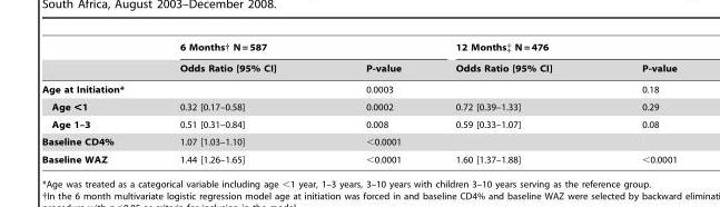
<table><thead><tr><td rowspan="2"></td><td colspan="2">6 Months† N = 587</td><td colspan="2">12 Months‡ N = 476</td></tr><tr><td>Odds Ratio [95% CI]</td><td>P-value</td><td>Odds Ratio [95% CI]</td><td>P-value</td></tr></thead><tbody><tr><td>Age at Initiation*</td><td></td><td>0.0003</td><td></td><td>0.18</td></tr><tr><td>Age &lt;1</td><td>0.32 [0.17–0.58]</td><td>0.0002</td><td>0.72 [0.39–1.33]</td><td>0.29</td></tr><tr><td>Age 1–3</td><td>0.51 [0.31–0.84]</td><td>0.008</td><td>0.59 [0.33–1.07]</td><td>0.08</td></tr><tr><td>Baseline CD4%</td><td>1.07 [1.03–1.10]</td><td>&lt;0.0001</td><td></td><td></td></tr><tr><td>Baseline WAZ</td><td>1.44 [1.26–1.65]</td><td>&lt;0.0001</td><td>1.60 [1.37–1.88]</td><td>&lt;0.0001</td></tr></tbody></table>